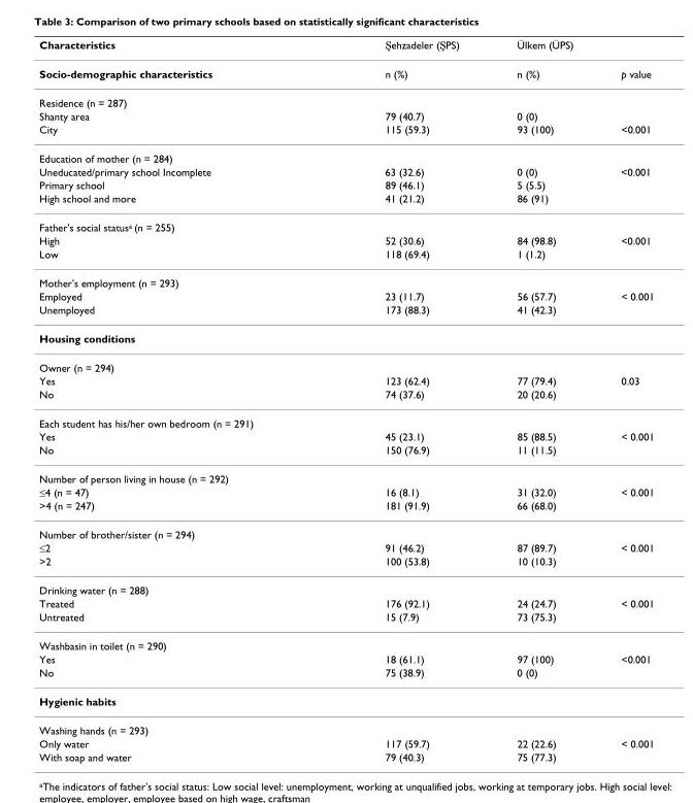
<table><thead><tr><td>Characteristics</td><td>Şehzadeler (ŞPS)</td><td>Ülkem (ÜPS)</td><td></td></tr></thead><tbody><tr><td>Socio-demographic characteristics</td><td>n (%)</td><td>n (%)</td><td>p value</td></tr><tr><td colspan="4">Residence (n = 287)</td></tr><tr><td>Shanty area</td><td>79 (40.7)</td><td>0 (0)</td><td></td></tr><tr><td>City</td><td>115 (59.3)</td><td>93 (100)</td><td>&lt;0.001</td></tr><tr><td colspan="4">Education of mother (n = 284)</td></tr><tr><td>Uneducated/primary school Incomplete</td><td>63 (32.6)</td><td>0 (0)</td><td>&lt;0.001</td></tr><tr><td>Primary school</td><td>89 (46.1)</td><td>5 (5.5)</td><td></td></tr><tr><td>High school and more</td><td>41 (21.2)</td><td>86 (91)</td><td></td></tr><tr><td colspan="4">Father&#x27;s social status<sup>a</sup> (n = 255)</td></tr><tr><td>High</td><td>52 (30.6)</td><td>84 (98.8)</td><td>&lt;0.001</td></tr><tr><td>Low</td><td>118 (69.4)</td><td>1 (1.2)</td><td></td></tr><tr><td colspan="4">Mother&#x27;s employment (n = 293)</td></tr><tr><td>Employed</td><td>23 (11.7)</td><td>56 (57.7)</td><td>&lt; 0.001</td></tr><tr><td>Unemployed</td><td>173 (88.3)</td><td>41 (42.3)</td><td></td></tr><tr><td colspan="4">Housing conditions</td></tr><tr><td colspan="4">Owner (n = 294)</td></tr><tr><td>Yes</td><td>123 (62.4)</td><td>77 (79.4)</td><td>0.03</td></tr><tr><td>No</td><td>74 (37.6)</td><td>20 (20.6)</td><td></td></tr><tr><td colspan="4">Each student has his/her own bedroom (n = 291)</td></tr><tr><td>Yes</td><td>45 (23.1)</td><td>85 (88.5)</td><td>&lt; 0.001</td></tr><tr><td>No</td><td>150 (76.9)</td><td>11 (11.5)</td><td></td></tr><tr><td colspan="4">Number of person living in house (n = 292)</td></tr><tr><td>≤4 (n = 47)</td><td>16 (8.1)</td><td>31 (32.0)</td><td>&lt; 0.001</td></tr><tr><td>&gt;4 (n = 247)</td><td>181 (91.9)</td><td>66 (68.0)</td><td></td></tr><tr><td colspan="4">Number of brother/sister (n = 294)</td></tr><tr><td>≤2</td><td>91 (46.2)</td><td>87 (89.7)</td><td>&lt; 0.001</td></tr><tr><td>&gt;2</td><td>100 (53.8)</td><td>10 (10.3)</td><td></td></tr><tr><td colspan="4">Drinking water (n = 288)</td></tr><tr><td>Treated</td><td>176 (92.1)</td><td>24 (24.7)</td><td>&lt; 0.001</td></tr><tr><td>Untreated</td><td>15 (7.9)</td><td>73 (75.3)</td><td></td></tr><tr><td colspan="4">Washbasin in toilet (n = 290)</td></tr><tr><td>Yes</td><td>18 (61.1)</td><td>97 (100)</td><td>&lt;0.001</td></tr><tr><td>No</td><td>75 (38.9)</td><td>0 (0)</td><td></td></tr><tr><td colspan="4">Hygienic habits</td></tr><tr><td colspan="4">Washing hands (n = 293)</td></tr><tr><td>Only water</td><td>117 (59.7)</td><td>22 (22.6)</td><td>&lt; 0.001</td></tr><tr><td>With soap and water</td><td>79 (40.3)</td><td>75 (77.3)</td><td></td></tr></tbody></table>